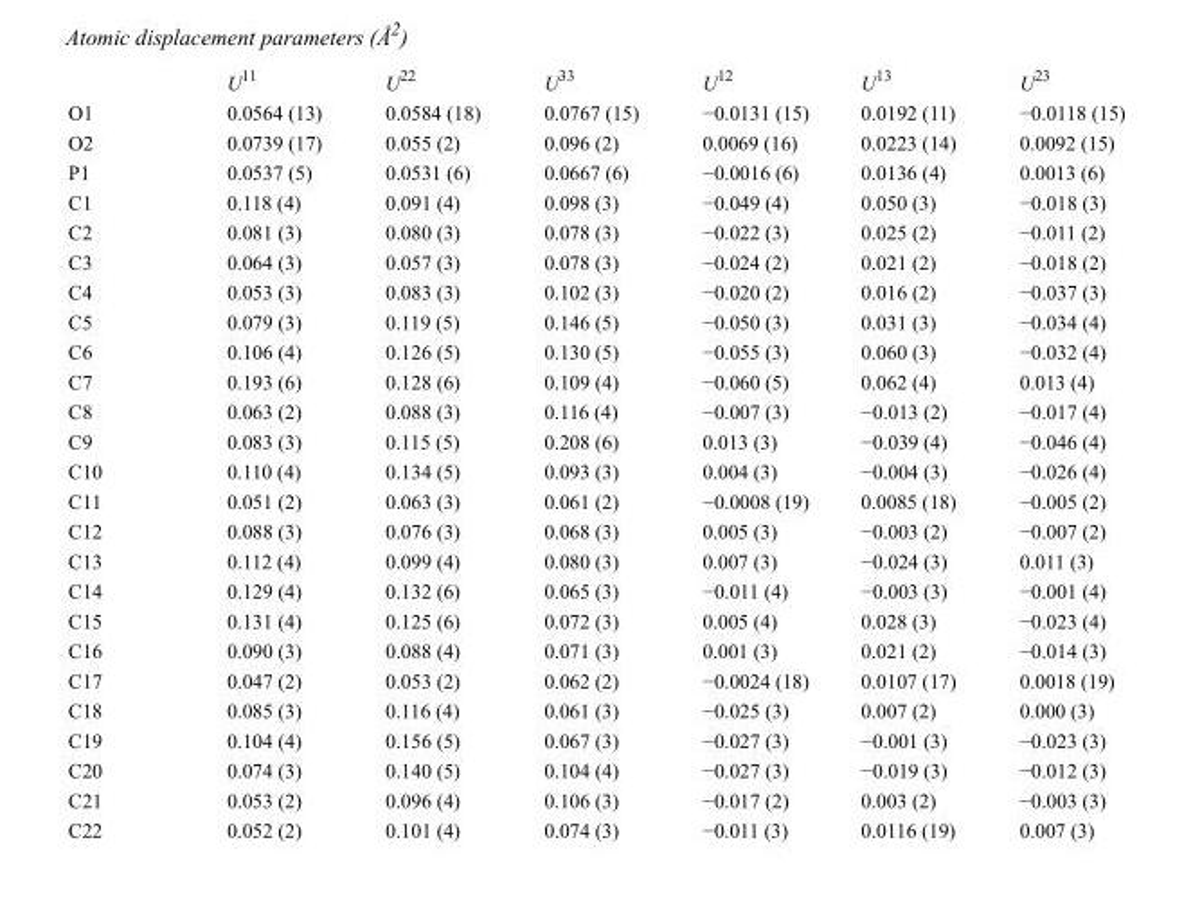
<table><thead><tr><td></td><td>U<sup>11</sup></td><td>U<sup>22</sup></td><td>U<sup>33</sup></td><td>U<sup>12</sup></td><td>U<sup>13</sup></td><td>U<sup>23</sup></td></tr></thead><tbody><tr><td>O1</td><td>0.0564 (13)</td><td>0.0584 (18)</td><td>0.0767 (15)</td><td>−0.0131 (15)</td><td>0.0192 (11)</td><td>−0.0118 (15)</td></tr><tr><td>O2</td><td>0.0739 (17)</td><td>0.055 (2)</td><td>0.096 (2)</td><td>0.0069 (16)</td><td>0.0223 (14)</td><td>0.0092 (15)</td></tr><tr><td>P1</td><td>0.0537 (5)</td><td>0.0531 (6)</td><td>0.0667 (6)</td><td>−0.0016 (6)</td><td>0.0136 (4)</td><td>0.0013 (6)</td></tr><tr><td>C1</td><td>0.118 (4)</td><td>0.091 (4)</td><td>0.098 (3)</td><td>−0.049 (4)</td><td>0.050 (3)</td><td>−0.018 (3)</td></tr><tr><td>C2</td><td>0.081 (3)</td><td>0.080 (3)</td><td>0.078 (3)</td><td>−0.022 (3)</td><td>0.025 (2)</td><td>−0.011 (2)</td></tr><tr><td>C3</td><td>0.064 (3)</td><td>0.057 (3)</td><td>0.078 (3)</td><td>−0.024 (2)</td><td>0.021 (2)</td><td>−0.018 (2)</td></tr><tr><td>C4</td><td>0.053 (3)</td><td>0.083 (3)</td><td>0.102 (3)</td><td>−0.020 (2)</td><td>0.016 (2)</td><td>−0.037 (3)</td></tr><tr><td>C5</td><td>0.079 (3)</td><td>0.119 (5)</td><td>0.146 (5)</td><td>−0.050 (3)</td><td>0.031 (3)</td><td>−0.034 (4)</td></tr><tr><td>C6</td><td>0.106 (4)</td><td>0.126 (5)</td><td>0.130 (5)</td><td>−0.055 (3)</td><td>0.060 (3)</td><td>−0.032 (4)</td></tr><tr><td>C7</td><td>0.193 (6)</td><td>0.128 (6)</td><td>0.109 (4)</td><td>−0.060 (5)</td><td>0.062 (4)</td><td>0.013 (4)</td></tr><tr><td>C8</td><td>0.063 (2)</td><td>0.088 (3)</td><td>0.116 (4)</td><td>−0.007 (3)</td><td>−0.013 (2)</td><td>−0.017 (4)</td></tr><tr><td>C9</td><td>0.083 (3)</td><td>0.115 (5)</td><td>0.208 (6)</td><td>0.013 (3)</td><td>−0.039 (4)</td><td>−0.046 (4)</td></tr><tr><td>C10</td><td>0.110 (4)</td><td>0.134 (5)</td><td>0.093 (3)</td><td>0.004 (3)</td><td>−0.004 (3)</td><td>−0.026 (4)</td></tr><tr><td>C11</td><td>0.051 (2)</td><td>0.063 (3)</td><td>0.061 (2)</td><td>−0.0008 (19)</td><td>0.0085 (18)</td><td>−0.005 (2)</td></tr><tr><td>C12</td><td>0.088 (3)</td><td>0.076 (3)</td><td>0.068 (3)</td><td>0.005 (3)</td><td>−0.003 (2)</td><td>−0.007 (2)</td></tr><tr><td>C13</td><td>0.112 (4)</td><td>0.099 (4)</td><td>0.080 (3)</td><td>0.007 (3)</td><td>−0.024 (3)</td><td>0.011 (3)</td></tr><tr><td>C14</td><td>0.129 (4)</td><td>0.132 (6)</td><td>0.065 (3)</td><td>−0.011 (4)</td><td>−0.003 (3)</td><td>−0.001 (4)</td></tr><tr><td>C15</td><td>0.131 (4)</td><td>0.125 (6)</td><td>0.072 (3)</td><td>0.005 (4)</td><td>0.028 (3)</td><td>−0.023 (4)</td></tr><tr><td>C16</td><td>0.090 (3)</td><td>0.088 (4)</td><td>0.071 (3)</td><td>0.001 (3)</td><td>0.021 (2)</td><td>−0.014 (3)</td></tr><tr><td>C17</td><td>0.047 (2)</td><td>0.053 (2)</td><td>0.062 (2)</td><td>−0.0024 (18)</td><td>0.0107 (17)</td><td>0.0018 (19)</td></tr><tr><td>C18</td><td>0.085 (3)</td><td>0.116 (4)</td><td>0.061 (3)</td><td>−0.025 (3)</td><td>0.007 (2)</td><td>0.000 (3)</td></tr><tr><td>C19</td><td>0.104 (4)</td><td>0.156 (5)</td><td>0.067 (3)</td><td>−0.027 (3)</td><td>−0.001 (3)</td><td>−0.023 (3)</td></tr><tr><td>C20</td><td>0.074 (3)</td><td>0.140 (5)</td><td>0.104 (4)</td><td>−0.027 (3)</td><td>−0.019 (3)</td><td>−0.012 (3)</td></tr><tr><td>C21</td><td>0.053 (2)</td><td>0.096 (4)</td><td>0.106 (3)</td><td>−0.017 (2)</td><td>0.003 (2)</td><td>−0.003 (3)</td></tr><tr><td>C22</td><td>0.052 (2)</td><td>0.101 (4)</td><td>0.074 (3)</td><td>−0.011 (3)</td><td>0.0116 (19)</td><td>0.007 (3)</td></tr></tbody></table>